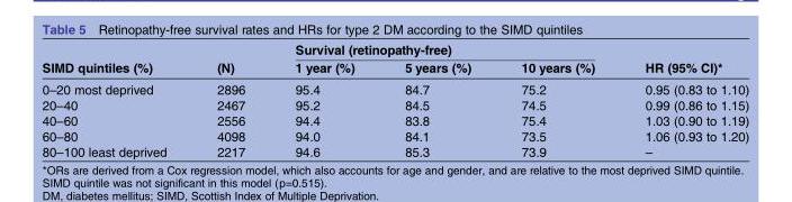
<table><thead><tr><td rowspan="2">SIMD quintiles (%)</td><td rowspan="2">(N)</td><td colspan="3">Survival (retinopathy-free)</td><td rowspan="2">HR (95% CI)*</td></tr><tr><td>1 year (%)</td><td>5 years (%)</td><td>10 years (%)</td></tr></thead><tbody><tr><td>0–20 most deprived</td><td>2896</td><td>95.4</td><td>84.7</td><td>75.2</td><td>0.95 (0.83 to 1.10)</td></tr><tr><td>20–40</td><td>2467</td><td>95.2</td><td>84.5</td><td>74.5</td><td>0.99 (0.86 to 1.15)</td></tr><tr><td>40–60</td><td>2556</td><td>94.4</td><td>83.8</td><td>75.4</td><td>1.03 (0.90 to 1.19)</td></tr><tr><td>60–80</td><td>4098</td><td>94.0</td><td>84.1</td><td>73.5</td><td>1.06 (0.93 to 1.20)</td></tr><tr><td>80–100 least deprived</td><td>2217</td><td>94.6</td><td>85.3</td><td>73.9</td><td>–</td></tr></tbody></table>